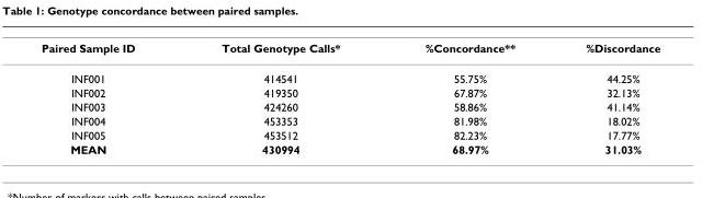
<table><tbody><tr><td>Paired Sample ID</td><td>Total Genotype Calls*</td><td>%Concordance**</td><td>%Discordance</td></tr><tr><td>INF001</td><td>414541</td><td>55.75%</td><td>44.25%</td></tr><tr><td>INF002</td><td>419350</td><td>67.87%</td><td>32.13%</td></tr><tr><td>INF003</td><td>424260</td><td>58.86%</td><td>41.14%</td></tr><tr><td>INF004</td><td>453353</td><td>81.98%</td><td>18.02%</td></tr><tr><td>INF005</td><td>453512</td><td>82.23%</td><td>17.77%</td></tr><tr><td>MEAN</td><td>430994</td><td>68.97%</td><td>31.03%</td></tr></tbody></table>